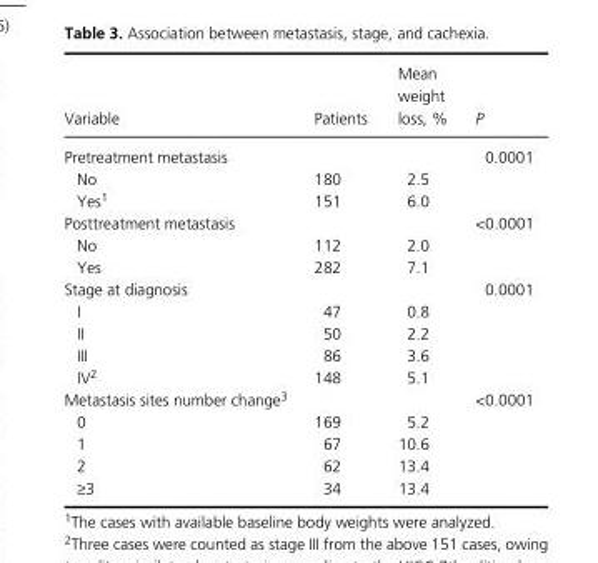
<table><thead><tr><td>Variable</td><td>Patients</td><td>Mean weight loss, %</td><td>P</td></tr></thead><tbody><tr><td>Pretreatment metastasis</td><td></td><td></td><td>0.0001</td></tr><tr><td>No</td><td>180</td><td>2.5</td><td></td></tr><tr><td>Yes1</td><td>151</td><td>6.0</td><td></td></tr><tr><td>Posttreatment metastasis</td><td></td><td></td><td>&lt;0.0001</td></tr><tr><td>No</td><td>112</td><td>2.0</td><td></td></tr><tr><td>Yes</td><td>282</td><td>7.1</td><td></td></tr><tr><td>Stage at diagnosis</td><td></td><td></td><td>0.0001</td></tr><tr><td>I</td><td>47</td><td>0.8</td><td></td></tr><tr><td>II</td><td>50</td><td>2.2</td><td></td></tr><tr><td>III</td><td>86</td><td>3.6</td><td></td></tr><tr><td>IV2</td><td>148</td><td>5.1</td><td></td></tr><tr><td>Metastasis sites number change3</td><td></td><td></td><td>&lt;0.0001</td></tr><tr><td>0</td><td>169</td><td>5.2</td><td></td></tr><tr><td>1</td><td>67</td><td>10.6</td><td></td></tr><tr><td>2</td><td>62</td><td>13.4</td><td></td></tr><tr><td>≥3</td><td>34</td><td>13.4</td><td></td></tr></tbody></table>